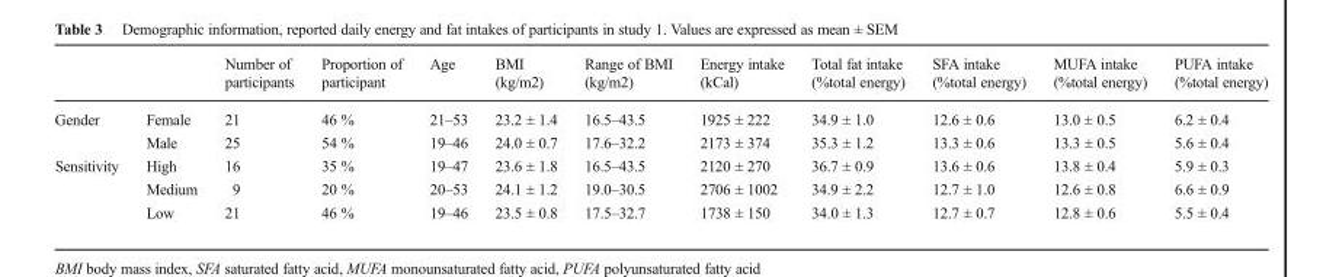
<table><thead><tr><td></td><td></td><td>Number of participants</td><td>Proportion of participant</td><td>Age</td><td>BMI (kg/m2)</td><td>Range of BMI (kg/m2)</td><td>Energy intake (kCal)</td><td>Total fat intake (%total energy)</td><td>SFA intake (%total energy)</td><td>MUFA intake (%total energy)</td><td>PUFA intake (%total energy)</td></tr></thead><tbody><tr><td rowspan="2">Gender</td><td>Female</td><td>21</td><td>46 %</td><td>21–53</td><td>23.2 ± 1.4</td><td>16.5–43.5</td><td>1925 ± 222</td><td>34.9 ± 1.0</td><td>12.6 ± 0.6</td><td>13.0 ± 0.5</td><td>6.2 ± 0.4</td></tr><tr><td>Male</td><td>25</td><td>54 %</td><td>19–46</td><td>24.0 ± 0.7</td><td>17.6–32.2</td><td>2173 ± 374</td><td>35.3 ± 1.2</td><td>13.3 ± 0.6</td><td>13.3 ± 0.5</td><td>5.6 ± 0.4</td></tr><tr><td rowspan="3">Sensitivity</td><td>High</td><td>16</td><td>35 %</td><td>19–47</td><td>23.6 ± 1.8</td><td>16.5–43.5</td><td>2120 ± 270</td><td>36.7 ± 0.9</td><td>13.6 ± 0.6</td><td>13.8 ± 0.4</td><td>5.9 ± 0.3</td></tr><tr><td>Medium</td><td>9</td><td>20 %</td><td>20–53</td><td>24.1 ± 1.2</td><td>19.0–30.5</td><td>2706 ± 1002</td><td>34.9 ± 2.2</td><td>12.7 ± 1.0</td><td>12.6 ± 0.8</td><td>6.6 ± 0.9</td></tr><tr><td>Low</td><td>21</td><td>46 %</td><td>19–46</td><td>23.5 ± 0.8</td><td>17.5–32.7</td><td>1738 ± 150</td><td>34.0 ± 1.3</td><td>12.7 ± 0.7</td><td>12.8 ± 0.6</td><td>5.5 ± 0.4</td></tr></tbody></table>